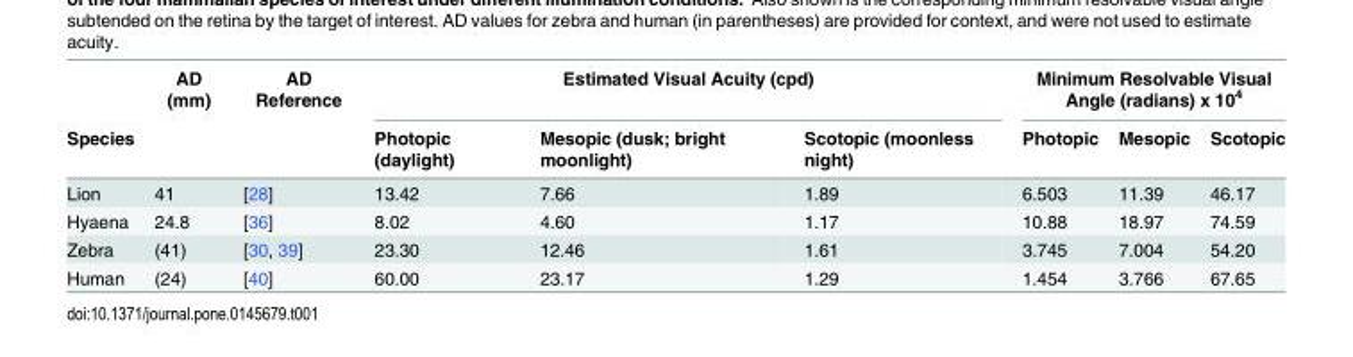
<table><thead><tr><td rowspan="2">Species</td><td rowspan="2">AD (mm)</td><td rowspan="2">AD Reference</td><td colspan="3">Estimated Visual Acuity (cpd)</td><td colspan="3">Minimum Resolvable Visual Angle (radians) x 10<sup>4</sup></td></tr><tr><td>Photopic (daylight)</td><td>Mesopic (dusk; bright moonlight)</td><td>Scotopic (moonless night)</td><td>Photopic</td><td>Mesopic</td><td>Scotopic</td></tr></thead><tbody><tr><td>Lion</td><td>41</td><td>[28]</td><td>13.42</td><td>7.66</td><td>1.89</td><td>6.503</td><td>11.39</td><td>46.17</td></tr><tr><td>Hyaena</td><td>24.8</td><td>[36]</td><td>8.02</td><td>4.60</td><td>1.17</td><td>10.88</td><td>18.97</td><td>74.59</td></tr><tr><td>Zebra</td><td>(41)</td><td>[30, 39]</td><td>23.30</td><td>12.46</td><td>1.61</td><td>3.745</td><td>7.004</td><td>54.20</td></tr><tr><td>Human</td><td>(24)</td><td>[40]</td><td>60.00</td><td>23.17</td><td>1.29</td><td>1.454</td><td>3.766</td><td>67.65</td></tr></tbody></table>